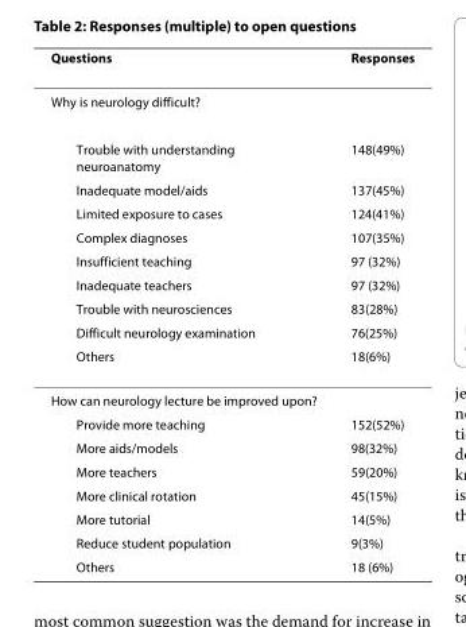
<table><thead><tr><td>Questions</td><td>Responses</td></tr></thead><tbody><tr><td colspan="2">Why is neurology difficult?</td></tr><tr><td>Trouble with understanding neuroanatomy</td><td>148(49%)</td></tr><tr><td>Inadequate model/aids</td><td>137(45%)</td></tr><tr><td>Limited exposure to cases</td><td>124(41%)</td></tr><tr><td>Complex diagnoses</td><td>107(35%)</td></tr><tr><td>Insufficient teaching</td><td>97 (32%)</td></tr><tr><td>Inadequate teachers</td><td>97 (32%)</td></tr><tr><td>Trouble with neurosciences</td><td>83(28%)</td></tr><tr><td>Difficult neurology examination</td><td>76(25%)</td></tr><tr><td>Others</td><td>18(6%)</td></tr><tr><td colspan="2">How can neurology lecture be improved upon?</td></tr><tr><td>Provide more teaching</td><td>152(52%)</td></tr><tr><td>More aids/models</td><td>98(32%)</td></tr><tr><td>More teachers</td><td>59(20%)</td></tr><tr><td>More clinical rotation</td><td>45(15%)</td></tr><tr><td>More tutorial</td><td>14(5%)</td></tr><tr><td>Reduce student population</td><td>9(3%)</td></tr><tr><td>Others</td><td>18 (6%)</td></tr></tbody></table>